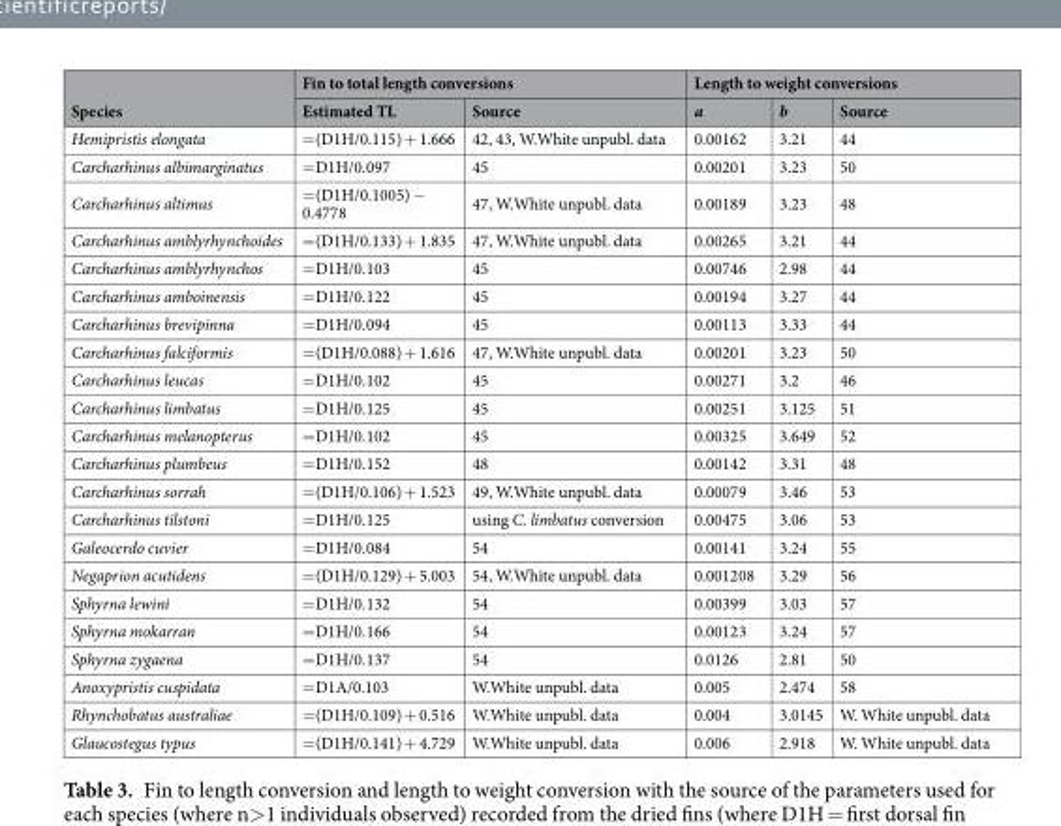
<table><thead><tr><td rowspan="2">Species</td><td colspan="2">Fin to total length conversions</td><td colspan="3">Length to weight conversions</td></tr><tr><td>Estimated TL</td><td>Source</td><td>a</td><td>b</td><td>Source</td></tr></thead><tbody><tr><td>Hemipristis elongata</td><td>=(D1H/0.115) + 1.666</td><td><sup>42, 43</sup>, W.White unpubl. data</td><td>0.00162</td><td>3.21</td><td><sup>44</sup></td></tr><tr><td>Carcharhinus albimarginatus</td><td>=D1H/0.097</td><td><sup>45</sup></td><td>0.00201</td><td>3.23</td><td><sup>50</sup></td></tr><tr><td>Carcharhinus altimus</td><td>=(D1H/0.1005) − 0.4778</td><td><sup>47</sup>, W.White unpubl. data</td><td>0.00189</td><td>3.23</td><td><sup>48</sup></td></tr><tr><td>Carcharhinus amblyrhynchoides</td><td>=(D1H/0.133) + 1.835</td><td><sup>47</sup>, W.White unpubl. data</td><td>0.00265</td><td>3.21</td><td><sup>44</sup></td></tr><tr><td>Carcharhinus amblyrhynchos</td><td>=D1H/0.103</td><td><sup>45</sup></td><td>0.00746</td><td>2.98</td><td><sup>44</sup></td></tr><tr><td>Carcharhinus amboinensis</td><td>=D1H/0.122</td><td><sup>45</sup></td><td>0.00194</td><td>3.27</td><td><sup>44</sup></td></tr><tr><td>Carcharhinus brevipinna</td><td>=D1H/0.094</td><td><sup>45</sup></td><td>0.00113</td><td>3.33</td><td><sup>44</sup></td></tr><tr><td>Carcharhinus falciformis</td><td>=(D1H/0.088) + 1.616</td><td><sup>47</sup>, W.White unpubl. data</td><td>0.00201</td><td>3.23</td><td><sup>50</sup></td></tr><tr><td>Carcharhinus leucas</td><td>=D1H/0.102</td><td><sup>45</sup></td><td>0.00271</td><td>3.2</td><td><sup>46</sup></td></tr><tr><td>Carcharhinus limbatus</td><td>=D1H/0.125</td><td><sup>45</sup></td><td>0.00251</td><td>3.125</td><td><sup>51</sup></td></tr><tr><td>Carcharhinus melanopterus</td><td>=D1H/0.102</td><td><sup>45</sup></td><td>0.00325</td><td>3.649</td><td><sup>52</sup></td></tr><tr><td>Carcharhinus plumbeus</td><td>=D1H/0.152</td><td><sup>48</sup></td><td>0.00142</td><td>3.31</td><td><sup>48</sup></td></tr><tr><td>Carcharhinus sorrah</td><td>=(D1H/0.106) + 1.523</td><td><sup>49</sup>, W.White unpubl. data</td><td>0.00079</td><td>3.46</td><td><sup>53</sup></td></tr><tr><td>Carcharhinus tilstoni</td><td>=D1H/0.125</td><td>using C. limbatus conversion</td><td>0.00475</td><td>3.06</td><td><sup>53</sup></td></tr><tr><td>Galeocerdo cuvier</td><td>=D1H/0.084</td><td><sup>54</sup></td><td>0.00141</td><td>3.24</td><td><sup>55</sup></td></tr><tr><td>Negaprion acutidens</td><td>=(D1H/0.129) + 5.003</td><td><sup>54</sup>, W.White unpubl. data</td><td>0.001208</td><td>3.29</td><td><sup>56</sup></td></tr><tr><td>Sphyrna lewini</td><td>=D1H/0.132</td><td><sup>54</sup></td><td>0.00399</td><td>3.03</td><td><sup>57</sup></td></tr><tr><td>Sphyrna mokarran</td><td>=D1H/0.166</td><td><sup>54</sup></td><td>0.00123</td><td>3.24</td><td><sup>57</sup></td></tr><tr><td>Sphyrna zygaena</td><td>=D1H/0.137</td><td><sup>54</sup></td><td>0.0126</td><td>2.81</td><td><sup>50</sup></td></tr><tr><td>Anoxypristis cuspidata</td><td>=D1A/0.103</td><td>W.White unpubl. data</td><td>0.005</td><td>2.474</td><td><sup>58</sup></td></tr><tr><td>Rhynchobatus australiae</td><td>=(D1H/0.109) + 0.516</td><td>W.White unpubl. data</td><td>0.004</td><td>3.0145</td><td>W. White unpubl. data</td></tr><tr><td>Glaucostegus typus</td><td>=(D1H/0.141) + 4.729</td><td>W.White unpubl. data</td><td>0.006</td><td>2.918</td><td>W. White unpubl. data</td></tr></tbody></table>